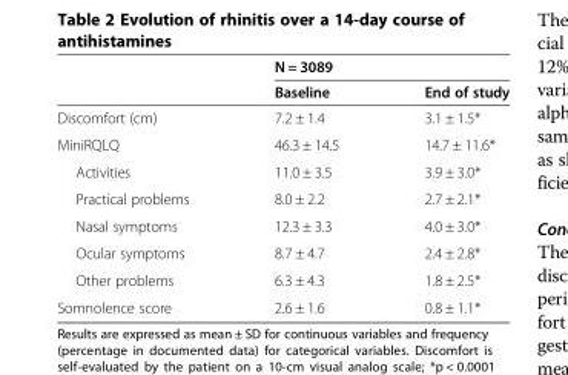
<table><thead><tr><td rowspan="2"></td><td colspan="2">N = 3089</td></tr><tr><td>Baseline</td><td>End of study</td></tr></thead><tbody><tr><td>Discomfort (cm)</td><td>7.2 ± 1.4</td><td>3.1 ± 1.5*</td></tr><tr><td>MiniRQLQ</td><td>46.3 ± 14.5</td><td>14.7 ± 11.6*</td></tr><tr><td>Activities</td><td>11.0 ± 3.5</td><td>3.9 ± 3.0*</td></tr><tr><td>Practical problems</td><td>8.0 ± 2.2</td><td>2.7 ± 2.1*</td></tr><tr><td>Nasal symptoms</td><td>12.3 ± 3.3</td><td>4.0 ± 3.0*</td></tr><tr><td>Ocular symptoms</td><td>8.7 ± 4.7</td><td>2.4 ± 2.8*</td></tr><tr><td>Other problems</td><td>6.3 ± 4.3</td><td>1.8 ± 2.5*</td></tr><tr><td>Somnolence score</td><td>2.6 ± 1.6</td><td>0.8 ± 1.1*</td></tr></tbody></table>